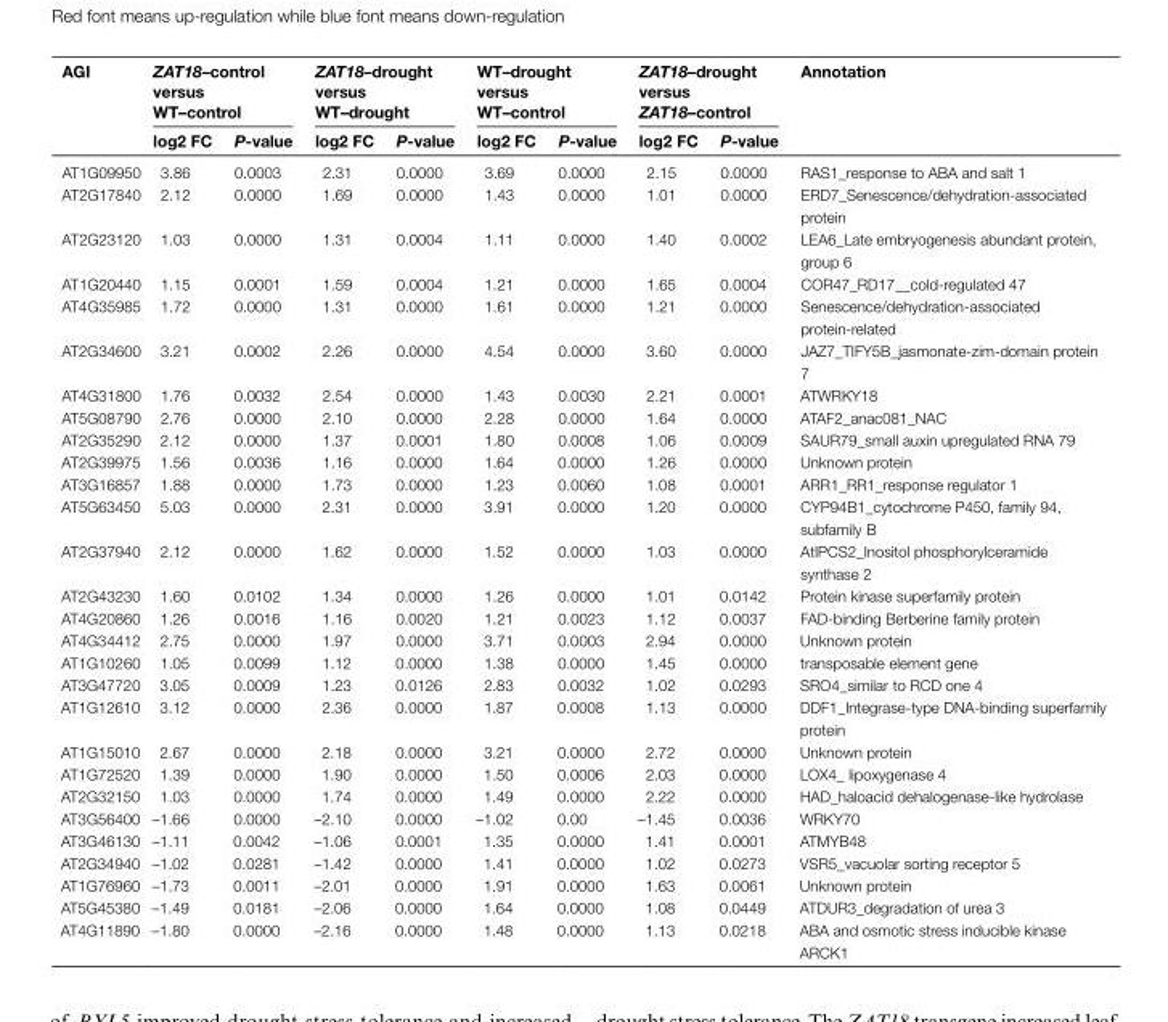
<table><thead><tr><td rowspan="3">AGI</td><td rowspan="2" colspan="2">ZAT18–control versus WT–control</td><td rowspan="2" colspan="2">ZAT18–drought versus WT–drought</td><td rowspan="2" colspan="2">WT–drought versus WT–control</td><td rowspan="2" colspan="2">ZAT18–drought versus ZAT18–control</td><td rowspan="3">Annotation</td></tr><tr></tr><tr><td>log2 FC</td><td>P-value</td><td>log2 FC</td><td>P-value</td><td>log2 FC</td><td>P-value</td><td>log2 FC</td><td>P-value</td></tr></thead><tbody><tr><td>AT1G09950</td><td>3.86</td><td>0.0003</td><td>2.31</td><td>0.0000</td><td>3.69</td><td>0.0000</td><td>2.15</td><td>0.0000</td><td>RAS1_response to ABA and salt 1</td></tr><tr><td>AT2G17840</td><td>2.12</td><td>0.0000</td><td>1.69</td><td>0.0000</td><td>1.43</td><td>0.0000</td><td>1.01</td><td>0.0000</td><td>ERD7_Senescence/dehydration-associated protein</td></tr><tr><td>AT2G23120</td><td>1.03</td><td>0.0000</td><td>1.31</td><td>0.0004</td><td>1.11</td><td>0.0000</td><td>1.40</td><td>0.0002</td><td>LEA6_Late embryogenesis abundant protein, group 6</td></tr><tr><td>AT1G20440</td><td>1.15</td><td>0.0001</td><td>1.59</td><td>0.0004</td><td>1.21</td><td>0.0000</td><td>1.65</td><td>0.0004</td><td>COR47_RD17__cold-regulated 47</td></tr><tr><td>AT4G35985</td><td>1.72</td><td>0.0000</td><td>1.31</td><td>0.0000</td><td>1.61</td><td>0.0000</td><td>1.21</td><td>0.0000</td><td>Senescence/dehydration-associated protein-related</td></tr><tr><td>AT2G34600</td><td>3.21</td><td>0.0002</td><td>2.26</td><td>0.0000</td><td>4.54</td><td>0.0000</td><td>3.60</td><td>0.0000</td><td>JAZ7_TIFY5B_jasmonate-zim-domain protein 7</td></tr><tr><td>AT4G31800</td><td>1.76</td><td>0.0032</td><td>2.54</td><td>0.0000</td><td>1.43</td><td>0.0030</td><td>2.21</td><td>0.0001</td><td>ATWRKY18</td></tr><tr><td>AT5G08790</td><td>2.76</td><td>0.0000</td><td>2.10</td><td>0.0000</td><td>2.28</td><td>0.0000</td><td>1.64</td><td>0.0000</td><td>ATAF2_anac081_NAC</td></tr><tr><td>AT2G35290</td><td>2.12</td><td>0.0000</td><td>1.37</td><td>0.0001</td><td>1.80</td><td>0.0008</td><td>1.06</td><td>0.0009</td><td>SAUR79_small auxin upregulated RNA 79</td></tr><tr><td>AT2G39975</td><td>1.56</td><td>0.0036</td><td>1.16</td><td>0.0000</td><td>1.64</td><td>0.0000</td><td>1.26</td><td>0.0000</td><td>Unknown protein</td></tr><tr><td>AT3G16857</td><td>1.88</td><td>0.0000</td><td>1.73</td><td>0.0000</td><td>1.23</td><td>0.0060</td><td>1.08</td><td>0.0001</td><td>ARR1_RR1_response regulator 1</td></tr><tr><td>AT5G63450</td><td>5.03</td><td>0.0000</td><td>2.31</td><td>0.0000</td><td>3.91</td><td>0.0000</td><td>1.20</td><td>0.0000</td><td>CYP94B1_cytochrome P450, family 94, subfamily B</td></tr><tr><td>AT2G37940</td><td>2.12</td><td>0.0000</td><td>1.62</td><td>0.0000</td><td>1.52</td><td>0.0000</td><td>1.03</td><td>0.0000</td><td>AtIPCS2_Inositol phosphorylceramide synthase 2</td></tr><tr><td>AT2G43230</td><td>1.60</td><td>0.0102</td><td>1.34</td><td>0.0000</td><td>1.26</td><td>0.0000</td><td>1.01</td><td>0.0142</td><td>Protein kinase superfamily protein</td></tr><tr><td>AT4G20860</td><td>1.26</td><td>0.0016</td><td>1.16</td><td>0.0020</td><td>1.21</td><td>0.0023</td><td>1.12</td><td>0.0037</td><td>FAD-binding Berberine family protein</td></tr><tr><td>AT4G34412</td><td>2.75</td><td>0.0000</td><td>1.97</td><td>0.0000</td><td>3.71</td><td>0.0003</td><td>2.94</td><td>0.0000</td><td>Unknown protein</td></tr><tr><td>AT1G10260</td><td>1.05</td><td>0.0099</td><td>1.12</td><td>0.0000</td><td>1.38</td><td>0.0000</td><td>1.45</td><td>0.0000</td><td>transposable element gene</td></tr><tr><td>AT3G47720</td><td>3.05</td><td>0.0009</td><td>1.23</td><td>0.0126</td><td>2.83</td><td>0.0032</td><td>1.02</td><td>0.0293</td><td>SRO4_similar to RCD one 4</td></tr><tr><td>AT1G12610</td><td>3.12</td><td>0.0000</td><td>2.36</td><td>0.0000</td><td>1.87</td><td>0.0008</td><td>1.13</td><td>0.0000</td><td>DDF1_Integrase-type DNA-binding superfamily protein</td></tr><tr><td>AT1G15010</td><td>2.67</td><td>0.0000</td><td>2.18</td><td>0.0000</td><td>3.21</td><td>0.0000</td><td>2.72</td><td>0.0000</td><td>Unknown protein</td></tr><tr><td>AT1G72520</td><td>1.39</td><td>0.0000</td><td>1.90</td><td>0.0000</td><td>1.50</td><td>0.0006</td><td>2.03</td><td>0.0000</td><td>LOX4_ lipoxygenase 4</td></tr><tr><td>AT2G32150</td><td>1.03</td><td>0.0000</td><td>1.74</td><td>0.0000</td><td>1.49</td><td>0.0000</td><td>2.22</td><td>0.0000</td><td>HAD_haloacid dehalogenase-like hydrolase</td></tr><tr><td>AT3G56400</td><td>–1.66</td><td>0.0000</td><td>–2.10</td><td>0.0000</td><td>–1.02</td><td>0.00</td><td>–1.45</td><td>0.0036</td><td>WRKY70</td></tr><tr><td>AT3G46130</td><td>–1.11</td><td>0.0042</td><td>–1.06</td><td>0.0001</td><td>1.35</td><td>0.0000</td><td>1.41</td><td>0.0001</td><td>ATMYB48</td></tr><tr><td>AT2G34940</td><td>–1.02</td><td>0.0281</td><td>–1.42</td><td>0.0000</td><td>1.41</td><td>0.0000</td><td>1.02</td><td>0.0273</td><td>VSR5_vacuolar sorting receptor 5</td></tr><tr><td>AT1G76960</td><td>–1.73</td><td>0.0011</td><td>–2.01</td><td>0.0000</td><td>1.91</td><td>0.0000</td><td>1.63</td><td>0.0061</td><td>Unknown protein</td></tr><tr><td>AT5G45380</td><td>–1.49</td><td>0.0181</td><td>–2.06</td><td>0.0000</td><td>1.64</td><td>0.0000</td><td>1.08</td><td>0.0449</td><td>ATDUR3_degradation of urea 3</td></tr><tr><td>AT4G11890</td><td>–1.80</td><td>0.0000</td><td>–2.16</td><td>0.0000</td><td>1.48</td><td>0.0000</td><td>1.13</td><td>0.0218</td><td>ABA and osmotic stress inducible kinase ARCK1</td></tr></tbody></table>